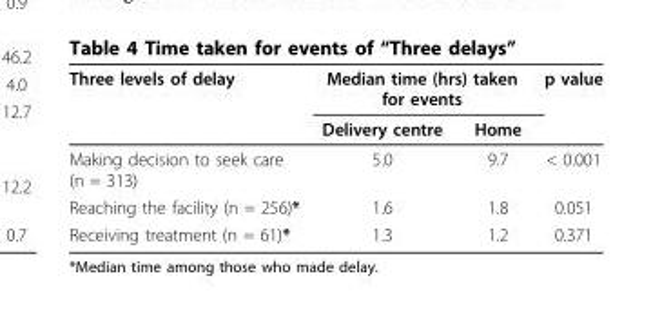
<table><thead><tr><td rowspan="2">Three levels of delay</td><td colspan="2">Median time (hrs) taken for events</td><td rowspan="2">p value</td></tr><tr><td>Delivery centre</td><td>Home</td></tr></thead><tbody><tr><td>Making decision to seek care (n = 313)</td><td>5.0</td><td>9.7</td><td>&lt; 0.001</td></tr><tr><td>Reaching the facility (n = 256)*</td><td>1.6</td><td>1.8</td><td>0.051</td></tr><tr><td>Receiving treatment (n = 61)*</td><td>1.3</td><td>1.2</td><td>0.371</td></tr></tbody></table>